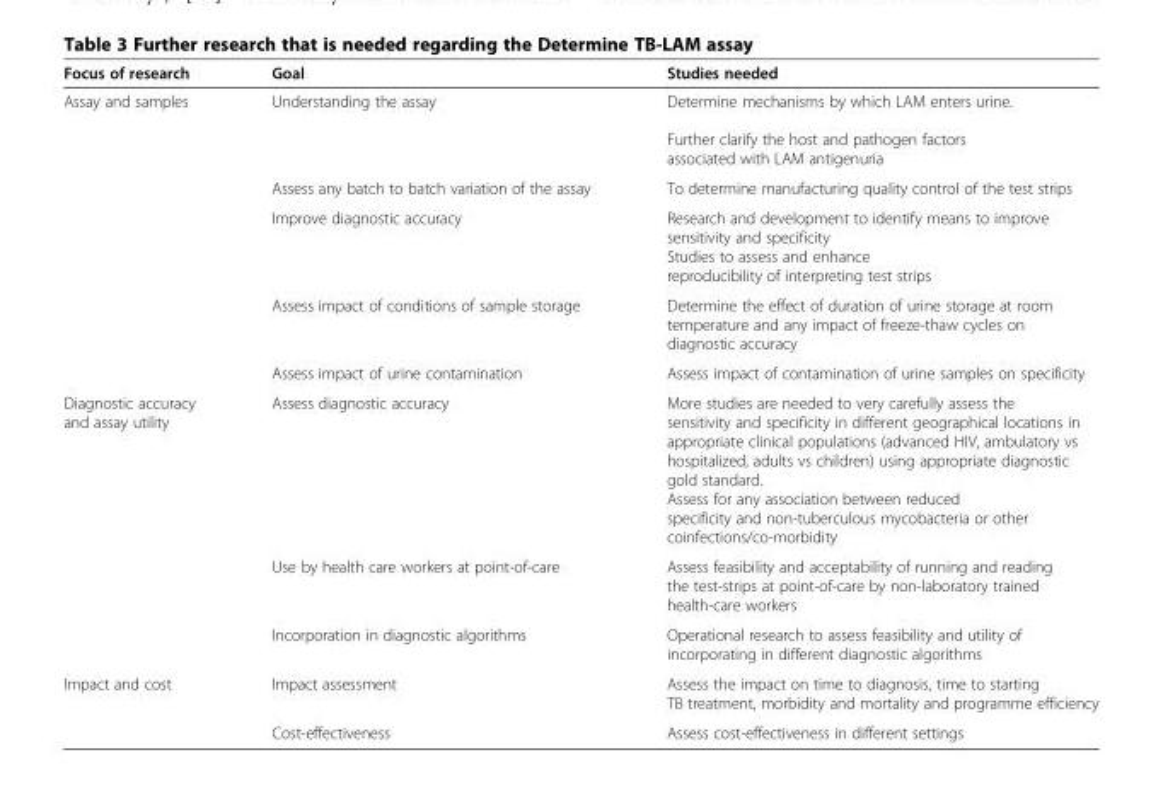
<table><thead><tr><td>Focus of research</td><td>Goal</td><td>Studies needed</td></tr></thead><tbody><tr><td rowspan="5">Assay and samples</td><td>Understanding the assay</td><td>Determine mechanisms by which LAM enters urine. Further clarify the host and pathogen factors associated with LAM antigenuria</td></tr><tr><td>Assess any batch to batch variation of the assay</td><td>To determine manufacturing quality control of the test strips</td></tr><tr><td>Improve diagnostic accuracy</td><td>Research and development to identify means to improve sensitivity and specificity Studies to assess and enhance reproducibility of interpreting test strips</td></tr><tr><td>Assess impact of conditions of sample storage</td><td>Determine the effect of duration of urine storage at room temperature and any impact of freeze-thaw cycles on diagnostic accuracy</td></tr><tr><td>Assess impact of urine contamination</td><td>Assess impact of contamination of urine samples on specificity</td></tr><tr><td rowspan="3">Diagnostic accuracy and assay utility</td><td>Assess diagnostic accuracy</td><td>More studies are needed to very carefully assess the sensitivity and specificity in different geographical locations in appropriate clinical populations (advanced HIV, ambulatory vs hospitalized, adults vs children) using appropriate diagnostic gold standard. Assess for any association between reduced specificity and non-tuberculous mycobacteria or other coinfections/co-morbidity</td></tr><tr><td>Use by health care workers at point-of-care</td><td>Assess feasibility and acceptability of running and reading the test-strips at point-of-care by non-laboratory trained health-care workers</td></tr><tr><td>Incorporation in diagnostic algorithms</td><td>Operational research to assess feasibility and utility of incorporating in different diagnostic algorithms</td></tr><tr><td rowspan="2">Impact and cost</td><td>Impact assessment</td><td>Assess the impact on time to diagnosis, time to starting TB treatment, morbidity and mortality and programme efficiency</td></tr><tr><td>Cost-effectiveness</td><td>Assess cost-effectiveness in different settings</td></tr></tbody></table>